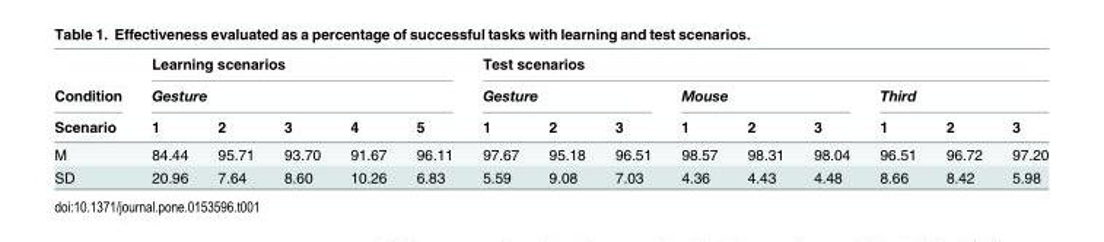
<table><thead><tr><td rowspan="3">Condition Scenario</td><td rowspan="2" colspan="5">Learning scenarios Gesture</td><td colspan="9">Test scenarios</td></tr><tr><td colspan="3">Gesture</td><td colspan="3">Mouse</td><td colspan="3">Third</td></tr><tr><td>1</td><td>2</td><td>3</td><td>4</td><td>5</td><td>1</td><td>2</td><td>3</td><td>1</td><td>2</td><td>3</td><td>1</td><td>2</td><td>3</td></tr></thead><tbody><tr><td>M</td><td>84.44</td><td>95.71</td><td>93.70</td><td>91.67</td><td>96.11</td><td>97.67</td><td>95.18</td><td>96.51</td><td>98.57</td><td>98.31</td><td>98.04</td><td>96.51</td><td>96.72</td><td>97.20</td></tr><tr><td>SD</td><td>20.96</td><td>7.64</td><td>8.60</td><td>10.26</td><td>6.83</td><td>5.59</td><td>9.08</td><td>7.03</td><td>4.36</td><td>4.43</td><td>4.48</td><td>8.66</td><td>8.42</td><td>5.98</td></tr></tbody></table>